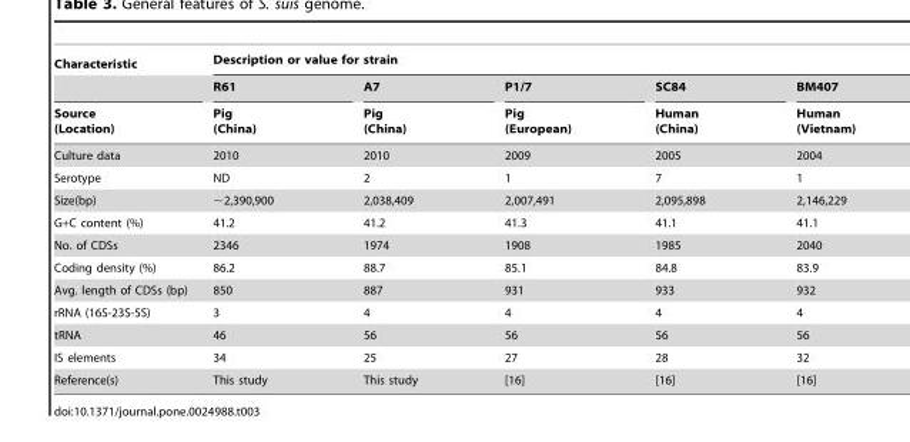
<table><thead><tr><td rowspan="3">Characteristic Source (Location)</td><td colspan="5">Description or value for strain</td></tr><tr><td rowspan="2">R61 Pig (China)</td><td rowspan="2">A7 Pig (China)</td><td rowspan="2">P1/7 Pig (European)</td><td rowspan="2">SC84 Human (China)</td><td rowspan="2">BM407 Human (Vietnam)</td></tr><tr></tr></thead><tbody><tr><td>Culture data</td><td>2010</td><td>2010</td><td>2009</td><td>2005</td><td>2004</td></tr><tr><td>Serotype</td><td>ND</td><td>2</td><td>1</td><td>7</td><td>1</td></tr><tr><td>Size(bp)</td><td>∼2,390,900</td><td>2,038,409</td><td>2,007,491</td><td>2,095,898</td><td>2,146,229</td></tr><tr><td>G+C content (%)</td><td>41.2</td><td>41.2</td><td>41.3</td><td>41.1</td><td>41.1</td></tr><tr><td>No. of CDSs</td><td>2346</td><td>1974</td><td>1908</td><td>1985</td><td>2040</td></tr><tr><td>Coding density (%)</td><td>86.2</td><td>88.7</td><td>85.1</td><td>84.8</td><td>83.9</td></tr><tr><td>Avg. length of CDSs (bp)</td><td>850</td><td>887</td><td>931</td><td>933</td><td>932</td></tr><tr><td>rRNA (16S-23S-5S)</td><td>3</td><td>4</td><td>4</td><td>4</td><td>4</td></tr><tr><td>tRNA</td><td>46</td><td>56</td><td>56</td><td>56</td><td>56</td></tr><tr><td>IS elements</td><td>34</td><td>25</td><td>27</td><td>28</td><td>32</td></tr><tr><td>Reference(s)</td><td>This study</td><td>This study</td><td>[16]</td><td>[16]</td><td>[16]</td></tr></tbody></table>